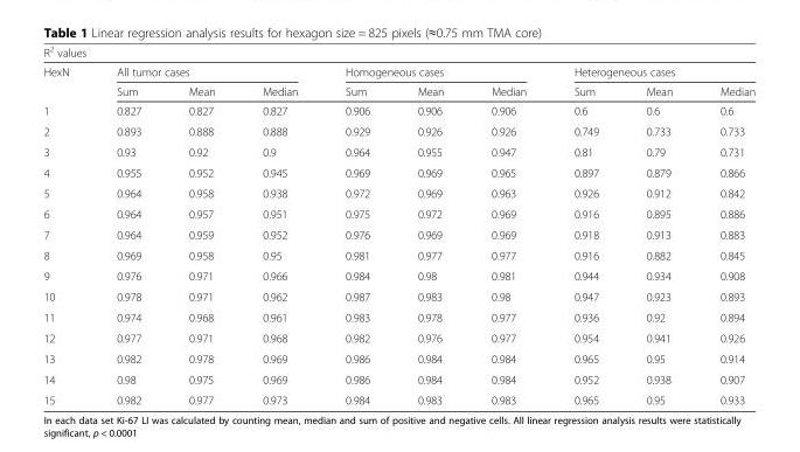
<table><thead><tr><td colspan="10">R<sup>2</sup> values</td></tr><tr><td rowspan="2">HexN</td><td colspan="3">All tumor cases</td><td colspan="3">Homogeneous cases</td><td colspan="3">Heterogeneous cases</td></tr><tr><td>Sum</td><td>Mean</td><td>Median</td><td>Sum</td><td>Mean</td><td>Median</td><td>Sum</td><td>Mean</td><td>Median</td></tr></thead><tbody><tr><td>1</td><td>0.827</td><td>0.827</td><td>0.827</td><td>0.906</td><td>0.906</td><td>0.906</td><td>0.6</td><td>0.6</td><td>0.6</td></tr><tr><td>2</td><td>0.893</td><td>0.888</td><td>0.888</td><td>0.929</td><td>0.926</td><td>0.926</td><td>0.749</td><td>0.733</td><td>0.733</td></tr><tr><td>3</td><td>0.93</td><td>0.92</td><td>0.9</td><td>0.964</td><td>0.955</td><td>0.947</td><td>0.81</td><td>0.79</td><td>0.731</td></tr><tr><td>4</td><td>0.955</td><td>0.952</td><td>0.945</td><td>0.969</td><td>0.969</td><td>0.965</td><td>0.897</td><td>0.879</td><td>0.866</td></tr><tr><td>5</td><td>0.964</td><td>0.958</td><td>0.938</td><td>0.972</td><td>0.969</td><td>0.963</td><td>0.926</td><td>0.912</td><td>0.842</td></tr><tr><td>6</td><td>0.964</td><td>0.957</td><td>0.951</td><td>0.975</td><td>0.972</td><td>0.969</td><td>0.916</td><td>0.895</td><td>0.886</td></tr><tr><td>7</td><td>0.964</td><td>0.959</td><td>0.952</td><td>0.976</td><td>0.969</td><td>0.969</td><td>0.918</td><td>0.913</td><td>0.883</td></tr><tr><td>8</td><td>0.969</td><td>0.958</td><td>0.95</td><td>0.981</td><td>0.977</td><td>0.977</td><td>0.916</td><td>0.882</td><td>0.845</td></tr><tr><td>9</td><td>0.976</td><td>0.971</td><td>0.966</td><td>0.984</td><td>0.98</td><td>0.981</td><td>0.944</td><td>0.934</td><td>0.908</td></tr><tr><td>10</td><td>0.978</td><td>0.971</td><td>0.962</td><td>0.987</td><td>0.983</td><td>0.98</td><td>0.947</td><td>0.923</td><td>0.893</td></tr><tr><td>11</td><td>0.974</td><td>0.968</td><td>0.961</td><td>0.983</td><td>0.978</td><td>0.977</td><td>0.936</td><td>0.92</td><td>0.894</td></tr><tr><td>12</td><td>0.977</td><td>0.971</td><td>0.968</td><td>0.982</td><td>0.976</td><td>0.977</td><td>0.954</td><td>0.941</td><td>0.926</td></tr><tr><td>13</td><td>0.982</td><td>0.978</td><td>0.969</td><td>0.986</td><td>0.984</td><td>0.984</td><td>0.965</td><td>0.95</td><td>0.914</td></tr><tr><td>14</td><td>0.98</td><td>0.975</td><td>0.969</td><td>0.986</td><td>0.984</td><td>0.984</td><td>0.952</td><td>0.938</td><td>0.907</td></tr><tr><td>15</td><td>0.982</td><td>0.977</td><td>0.973</td><td>0.984</td><td>0.983</td><td>0.983</td><td>0.965</td><td>0.95</td><td>0.933</td></tr></tbody></table>